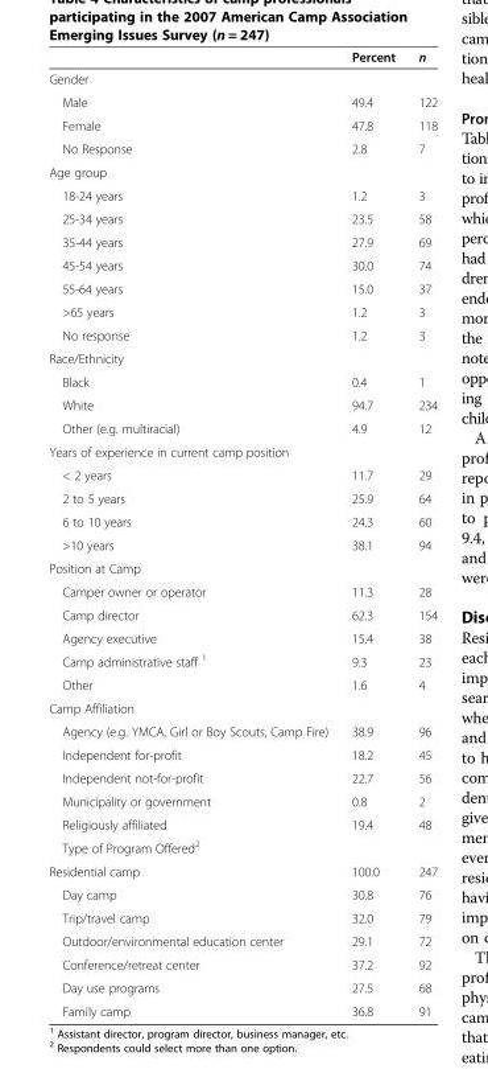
<table><thead><tr><td></td><td>Percent</td><td>n</td></tr></thead><tbody><tr><td colspan="3">Gender</td></tr><tr><td>Male</td><td>49.4</td><td>122</td></tr><tr><td>Female</td><td>47.8</td><td>118</td></tr><tr><td>No Response</td><td>2.8</td><td>7</td></tr><tr><td colspan="3">Age group</td></tr><tr><td>18-24 years</td><td>1.2</td><td>3</td></tr><tr><td>25-34 years</td><td>23.5</td><td>58</td></tr><tr><td>35-44 years</td><td>27.9</td><td>69</td></tr><tr><td>45-54 years</td><td>30.0</td><td>74</td></tr><tr><td>55-64 years</td><td>15.0</td><td>37</td></tr><tr><td>&gt;65 years</td><td>1.2</td><td>3</td></tr><tr><td>No response</td><td>1.2</td><td>3</td></tr><tr><td colspan="3">Race/Ethnicity</td></tr><tr><td>Black</td><td>0.4</td><td>1</td></tr><tr><td>White</td><td>94.7</td><td>234</td></tr><tr><td>Other (e.g. multiracial)</td><td>4.9</td><td>12</td></tr><tr><td colspan="3">Years of experience in current camp position</td></tr><tr><td>&lt; 2 years</td><td>11.7</td><td>29</td></tr><tr><td>2 to 5 years</td><td>25.9</td><td>64</td></tr><tr><td>6 to 10 years</td><td>24.3</td><td>60</td></tr><tr><td>&gt;10 years</td><td>38.1</td><td>94</td></tr><tr><td colspan="3">Position at Camp</td></tr><tr><td>Camper owner or operator</td><td>11.3</td><td>28</td></tr><tr><td>Camp director</td><td>62.3</td><td>154</td></tr><tr><td>Agency executive</td><td>15.4</td><td>38</td></tr><tr><td>Camp administrative staff <sup>1</sup></td><td>9.3</td><td>23</td></tr><tr><td>Other</td><td>1.6</td><td>4</td></tr><tr><td colspan="3">Camp Affiliation</td></tr><tr><td>Agency (e.g. YMCA, Girl or Boy Scouts, Camp Fire)</td><td>38.9</td><td>96</td></tr><tr><td>Independent for-profit</td><td>18.2</td><td>45</td></tr><tr><td>Independent not-for-profit</td><td>22.7</td><td>56</td></tr><tr><td>Municipality or government</td><td>0.8</td><td>2</td></tr><tr><td>Religiously affiliated</td><td>19.4</td><td>48</td></tr><tr><td colspan="3">Type of Program Offered<sup>2</sup></td></tr><tr><td>Residential camp</td><td>100.0</td><td>247</td></tr><tr><td>Day camp</td><td>30.8</td><td>76</td></tr><tr><td>Trip/travel camp</td><td>32.0</td><td>79</td></tr><tr><td>Outdoor/environmental education center</td><td>29.1</td><td>72</td></tr><tr><td>Conference/retreat center</td><td>37.2</td><td>92</td></tr><tr><td>Day use programs</td><td>27.5</td><td>68</td></tr><tr><td>Family camp</td><td>36.8</td><td>91</td></tr></tbody></table>